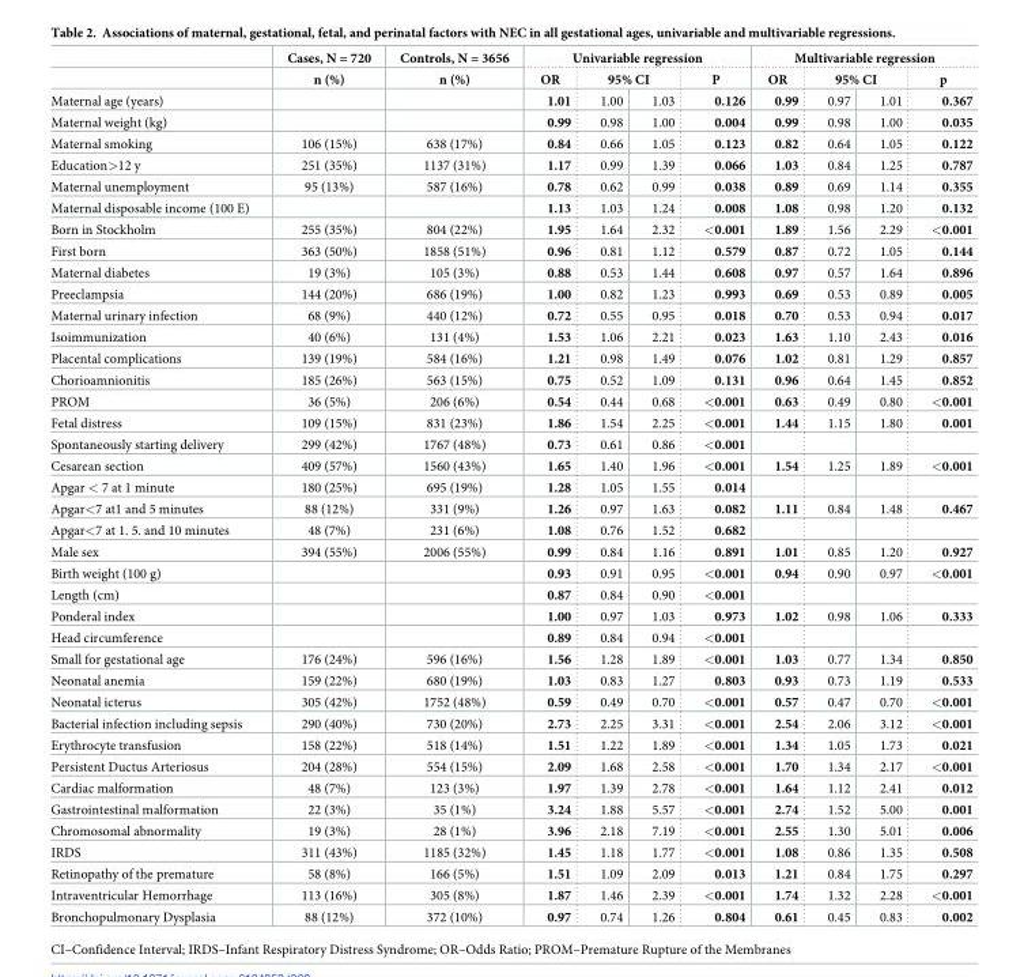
<table><thead><tr><td rowspan="3">Maternal age (years)</td><td rowspan="3">Cases, N = 720 n (%)</td><td rowspan="3">Controls, N = 3656 n (%)</td><td colspan="4">Univariable regression</td><td colspan="4">Multivariable regression</td></tr><tr><td rowspan="2">OR 1.01</td><td colspan="2">95% CI</td><td rowspan="2">P 0.126</td><td rowspan="2">OR 0.99</td><td colspan="2">95% CI</td><td rowspan="2">p 0.367</td></tr><tr><td>1.00</td><td>1.03</td><td>0.97</td><td>1.01</td></tr></thead><tbody><tr><td>Maternal weight (kg)</td><td></td><td></td><td>0.99</td><td>0.98</td><td>1.00</td><td>0.004</td><td>0.99</td><td>0.98</td><td>1.00</td><td>0.035</td></tr><tr><td>Maternal smoking</td><td>106 (15%)</td><td>638 (17%)</td><td>0.84</td><td>0.66</td><td>1.05</td><td>0.123</td><td>0.82</td><td>0.64</td><td>1.05</td><td>0.122</td></tr><tr><td>Education&gt;12 y</td><td>251 (35%)</td><td>1137 (31%)</td><td>1.17</td><td>0.99</td><td>1.39</td><td>0.066</td><td>1.03</td><td>0.84</td><td>1.25</td><td>0.787</td></tr><tr><td>Maternal unemployment</td><td>95 (13%)</td><td>587 (16%)</td><td>0.78</td><td>0.62</td><td>0.99</td><td>0.038</td><td>0.89</td><td>0.69</td><td>1.14</td><td>0.355</td></tr><tr><td>Maternal disposable income (100 E)</td><td></td><td></td><td>1.13</td><td>1.03</td><td>1.24</td><td>0.008</td><td>1.08</td><td>0.98</td><td>1.20</td><td>0.132</td></tr><tr><td>Born in Stockholm</td><td>255 (35%)</td><td>804 (22%)</td><td>1.95</td><td>1.64</td><td>2.32</td><td>&lt;0.001</td><td>1.89</td><td>1.56</td><td>2.29</td><td>&lt;0.001</td></tr><tr><td>First born</td><td>363 (50%)</td><td>1858 (51%)</td><td>0.96</td><td>0.81</td><td>1.12</td><td>0.579</td><td>0.87</td><td>0.72</td><td>1.05</td><td>0.144</td></tr><tr><td>Maternal diabetes</td><td>19 (3%)</td><td>105 (3%)</td><td>0.88</td><td>0.53</td><td>1.44</td><td>0.608</td><td>0.97</td><td>0.57</td><td>1.64</td><td>0.896</td></tr><tr><td>Preeclampsia</td><td>144 (20%)</td><td>686 (19%)</td><td>1.00</td><td>0.82</td><td>1.23</td><td>0.993</td><td>0.69</td><td>0.53</td><td>0.89</td><td>0.005</td></tr><tr><td>Maternal urinary infection</td><td>68 (9%)</td><td>440 (12%)</td><td>0.72</td><td>0.55</td><td>0.95</td><td>0.018</td><td>0.70</td><td>0.53</td><td>0.94</td><td>0.017</td></tr><tr><td>Isoimmunization</td><td>40 (6%)</td><td>131 (4%)</td><td>1.53</td><td>1.06</td><td>2.21</td><td>0.023</td><td>1.63</td><td>1.10</td><td>2.43</td><td>0.016</td></tr><tr><td>Placental complications</td><td>139 (19%)</td><td>584 (16%)</td><td>1.21</td><td>0.98</td><td>1.49</td><td>0.076</td><td>1.02</td><td>0.81</td><td>1.29</td><td>0.857</td></tr><tr><td>Chorioamnionitis</td><td>185 (26%)</td><td>563 (15%)</td><td>0.75</td><td>0.52</td><td>1.09</td><td>0.131</td><td>0.96</td><td>0.64</td><td>1.45</td><td>0.852</td></tr><tr><td>PROM</td><td>36 (5%)</td><td>206 (6%)</td><td>0.54</td><td>0.44</td><td>0.68</td><td>&lt;0.001</td><td>0.63</td><td>0.49</td><td>0.80</td><td>&lt;0.001</td></tr><tr><td>Fetal distress</td><td>109 (15%)</td><td>831 (23%)</td><td>1.86</td><td>1.54</td><td>2.25</td><td>&lt;0.001</td><td>1.44</td><td>1.15</td><td>1.80</td><td>0.001</td></tr><tr><td>Spontaneously starting delivery</td><td>299 (42%)</td><td>1767 (48%)</td><td>0.73</td><td>0.61</td><td>0.86</td><td>&lt;0.001</td><td></td><td></td><td></td><td></td></tr><tr><td>Cesarean section</td><td>409 (57%)</td><td>1560 (43%)</td><td>1.65</td><td>1.40</td><td>1.96</td><td>&lt;0.001</td><td>1.54</td><td>1.25</td><td>1.89</td><td>&lt;0.001</td></tr><tr><td>Apgar &lt; 7 at 1 minute</td><td>180 (25%)</td><td>695 (19%)</td><td>1.28</td><td>1.05</td><td>1.55</td><td>0.014</td><td></td><td></td><td></td><td></td></tr><tr><td>Apgar&lt;7 at1 and 5 minutes</td><td>88 (12%)</td><td>331 (9%)</td><td>1.26</td><td>0.97</td><td>1.63</td><td>0.082</td><td>1.11</td><td>0.84</td><td>1.48</td><td>0.467</td></tr><tr><td>Apgar&lt;7 at 1. 5. and 10 minutes</td><td>48 (7%)</td><td>231 (6%)</td><td>1.08</td><td>0.76</td><td>1.52</td><td>0.682</td><td></td><td></td><td></td><td></td></tr><tr><td>Male sex</td><td>394 (55%)</td><td>2006 (55%)</td><td>0.99</td><td>0.84</td><td>1.16</td><td>0.891</td><td>1.01</td><td>0.85</td><td>1.20</td><td>0.927</td></tr><tr><td>Birth weight (100 g)</td><td></td><td></td><td>0.93</td><td>0.91</td><td>0.95</td><td>&lt;0.001</td><td>0.94</td><td>0.90</td><td>0.97</td><td>&lt;0.001</td></tr><tr><td>Length (cm)</td><td></td><td></td><td>0.87</td><td>0.84</td><td>0.90</td><td>&lt;0.001</td><td></td><td></td><td></td><td></td></tr><tr><td>Ponderal index</td><td></td><td></td><td>1.00</td><td>0.97</td><td>1.03</td><td>0.973</td><td>1.02</td><td>0.98</td><td>1.06</td><td>0.333</td></tr><tr><td>Head circumference</td><td></td><td></td><td>0.89</td><td>0.84</td><td>0.94</td><td>&lt;0.001</td><td></td><td></td><td></td><td></td></tr><tr><td>Small for gestational age</td><td>176 (24%)</td><td>596 (16%)</td><td>1.56</td><td>1.28</td><td>1.89</td><td>&lt;0.001</td><td>1.03</td><td>0.77</td><td>1.34</td><td>0.850</td></tr><tr><td>Neonatal anemia</td><td>159 (22%)</td><td>680 (19%)</td><td>1.03</td><td>0.83</td><td>1.27</td><td>0.803</td><td>0.93</td><td>0.73</td><td>1.19</td><td>0.533</td></tr><tr><td>Neonatal icterus</td><td>305 (42%)</td><td>1752 (48%)</td><td>0.59</td><td>0.49</td><td>0.70</td><td>&lt;0.001</td><td>0.57</td><td>0.47</td><td>0.70</td><td>&lt;0.001</td></tr><tr><td>Bacterial infection including sepsis</td><td>290 (40%)</td><td>730 (20%)</td><td>2.73</td><td>2.25</td><td>3.31</td><td>&lt;0.001</td><td>2.54</td><td>2.06</td><td>3.12</td><td>&lt;0.001</td></tr><tr><td>Erythrocyte transfusion</td><td>158 (22%)</td><td>518 (14%)</td><td>1.51</td><td>1.22</td><td>1.89</td><td>&lt;0.001</td><td>1.34</td><td>1.05</td><td>1.73</td><td>0.021</td></tr><tr><td>Persistent Ductus Arteriosus</td><td>204 (28%)</td><td>554 (15%)</td><td>2.09</td><td>1.68</td><td>2.58</td><td>&lt;0.001</td><td>1.70</td><td>1.34</td><td>2.17</td><td>&lt;0.001</td></tr><tr><td>Cardiac malformation</td><td>48 (7%)</td><td>123 (3%)</td><td>1.97</td><td>1.39</td><td>2.78</td><td>&lt;0.001</td><td>1.64</td><td>1.12</td><td>2.41</td><td>0.012</td></tr><tr><td>Gastrointestinal malformation</td><td>22 (3%)</td><td>35 (1%)</td><td>3.24</td><td>1.88</td><td>5.57</td><td>&lt;0.001</td><td>2.74</td><td>1.52</td><td>5.00</td><td>0.001</td></tr><tr><td>Chromosomal abnormality</td><td>19 (3%)</td><td>28 (1%)</td><td>3.96</td><td>2.18</td><td>7.19</td><td>&lt;0.001</td><td>2.55</td><td>1.30</td><td>5.01</td><td>0.006</td></tr><tr><td>IRDS</td><td>311 (43%)</td><td>1185 (32%)</td><td>1.45</td><td>1.18</td><td>1.77</td><td>&lt;0.001</td><td>1.08</td><td>0.86</td><td>1.35</td><td>0.508</td></tr><tr><td>Retinopathy of the premature</td><td>58 (8%)</td><td>166 (5%)</td><td>1.51</td><td>1.09</td><td>2.09</td><td>0.013</td><td>1.21</td><td>0.84</td><td>1.75</td><td>0.297</td></tr><tr><td>Intraventricular Hemorrhage</td><td>113 (16%)</td><td>305 (8%)</td><td>1.87</td><td>1.46</td><td>2.39</td><td>&lt;0.001</td><td>1.74</td><td>1.32</td><td>2.28</td><td>&lt;0.001</td></tr><tr><td>Bronchopulmonary Dysplasia</td><td>88 (12%)</td><td>372 (10%)</td><td>0.97</td><td>0.74</td><td>1.26</td><td>0.804</td><td>0.61</td><td>0.45</td><td>0.83</td><td>0.002</td></tr></tbody></table>